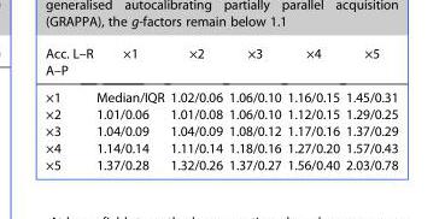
<table><thead><tr><td>Acc. L–R A–P</td><td>×1</td><td>×2</td><td>×3</td><td>×4</td><td>×5</td></tr></thead><tbody><tr><td>×1</td><td>Median/IQR</td><td>1.02/0.06</td><td>1.06/0.10</td><td>1.16/0.15</td><td>1.45/0.31</td></tr><tr><td>×2</td><td>1.01/0.06</td><td>1.01/0.08</td><td>1.06/0.10</td><td>1.12/0.15</td><td>1.29/0.25</td></tr><tr><td>×3</td><td>1.04/0.09</td><td>1.04/0.09</td><td>1.08/0.12</td><td>1.17/0.16</td><td>1.37/0.29</td></tr><tr><td>×4</td><td>1.14/0.14</td><td>1.11/0.14</td><td>1.18/0.16</td><td>1.27/0.20</td><td>1.57/0.43</td></tr><tr><td>×5</td><td>1.37/0.28</td><td>1.32/0.26</td><td>1.37/0.27</td><td>1.56/0.40</td><td>2.03/0.78</td></tr></tbody></table>